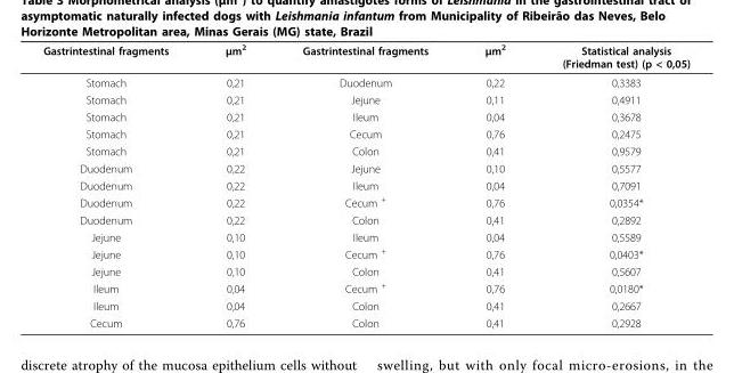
<table><thead><tr><td>Gastrintestinal fragments</td><td>μm<sup>2</sup></td><td>Gastrintestinal fragments</td><td>μm<sup>2</sup></td><td>Statistical analysis (Friedman test) (p &lt; 0,05)</td></tr></thead><tbody><tr><td>Stomach</td><td>0,21</td><td>Duodenum</td><td>0,22</td><td>0,3383</td></tr><tr><td>Stomach</td><td>0,21</td><td>Jejune</td><td>0,11</td><td>0,4911</td></tr><tr><td>Stomach</td><td>0,21</td><td>Ileum</td><td>0,04</td><td>0,3678</td></tr><tr><td>Stomach</td><td>0,21</td><td>Cecum</td><td>0,76</td><td>0,2475</td></tr><tr><td>Stomach</td><td>0,21</td><td>Colon</td><td>0,41</td><td>0,9579</td></tr><tr><td>Duodenum</td><td>0,22</td><td>Jejune</td><td>0,10</td><td>0,5577</td></tr><tr><td>Duodenum</td><td>0,22</td><td>Ileum</td><td>0,04</td><td>0,7091</td></tr><tr><td>Duodenum</td><td>0,22</td><td>Cecum <sup>+</sup></td><td>0,76</td><td>0,0354*</td></tr><tr><td>Duodenum</td><td>0,22</td><td>Colon</td><td>0,41</td><td>0,2892</td></tr><tr><td>Jejune</td><td>0,10</td><td>Ileum</td><td>0,04</td><td>0,5589</td></tr><tr><td>Jejune</td><td>0,10</td><td>Cecum <sup>+</sup></td><td>0,76</td><td>0,0403*</td></tr><tr><td>Jejune</td><td>0,10</td><td>Colon</td><td>0,41</td><td>0,5607</td></tr><tr><td>Ileum</td><td>0,04</td><td>Cecum <sup>+</sup></td><td>0,76</td><td>0,0180*</td></tr><tr><td>Ileum</td><td>0,04</td><td>Colon</td><td>0,41</td><td>0,2667</td></tr><tr><td>Cecum</td><td>0,76</td><td>Colon</td><td>0,41</td><td>0,2928</td></tr></tbody></table>